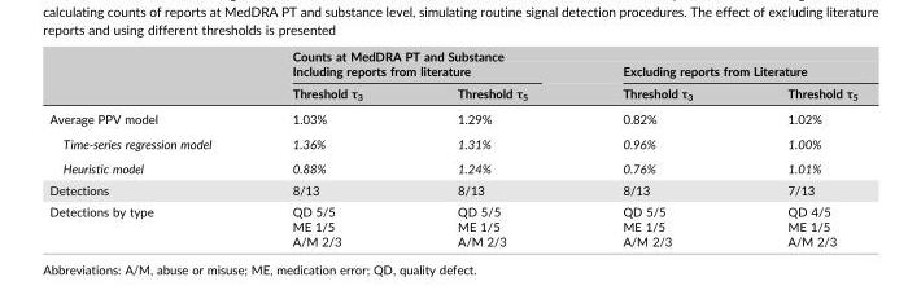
<table><thead><tr><td rowspan="3"></td><td colspan="4">Counts at MedDRA PT and Substance</td></tr><tr><td colspan="2">Including reports from literature</td><td colspan="2">Excluding reports from Literature</td></tr><tr><td>Threshold τ<sub>3</sub></td><td>Threshold τ<sub>5</sub></td><td>Threshold τ<sub>3</sub></td><td>Threshold τ<sub>5</sub></td></tr></thead><tbody><tr><td>Average PPV model</td><td>1.03%</td><td>1.29%</td><td>0.82%</td><td>1.02%</td></tr><tr><td>Time‐series regression model</td><td>1.36%</td><td>1.31%</td><td>0.96%</td><td>1.00%</td></tr><tr><td>Heuristic model</td><td>0.88%</td><td>1.24%</td><td>0.76%</td><td>1.01%</td></tr><tr><td>Detections</td><td>8/13</td><td>8/13</td><td>8/13</td><td>7/13</td></tr><tr><td rowspan="3">Detections by type</td><td>QD 5/5</td><td>QD 5/5</td><td>QD 5/5</td><td>QD 4/5</td></tr><tr><td>ME 1/5</td><td>ME 1/5</td><td>ME 1/5</td><td>ME 1/5</td></tr><tr><td>A/M 2/3</td><td>A/M 2/3</td><td>A/M 2/3</td><td>A/M 2/3</td></tr></tbody></table>